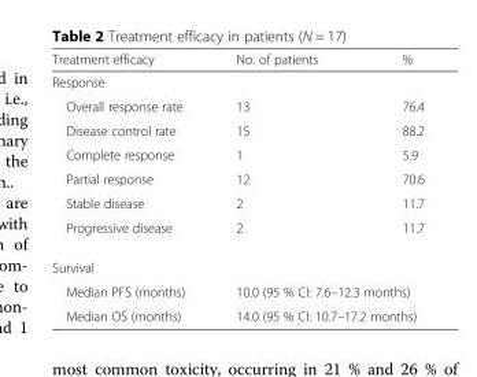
<table><thead><tr><td>Treatment efficacy</td><td>No. of patients</td><td>%</td></tr></thead><tbody><tr><td colspan="3">Response</td></tr><tr><td>Overall response rate</td><td>13</td><td>76.4</td></tr><tr><td>Disease control rate</td><td>15</td><td>88.2</td></tr><tr><td>Complete response</td><td>1</td><td>5.9</td></tr><tr><td>Partial response</td><td>12</td><td>70.6</td></tr><tr><td>Stable disease</td><td>2</td><td>11.7</td></tr><tr><td>Progressive disease</td><td>2</td><td>11.7</td></tr><tr><td colspan="3">Survival</td></tr><tr><td>Median PFS (months)</td><td colspan="2">10.0 (95 % CI: 7.6–12.3 months)</td></tr><tr><td>Median OS (months)</td><td colspan="2">14.0 (95 % CI: 10.7–17.2 months)</td></tr></tbody></table>